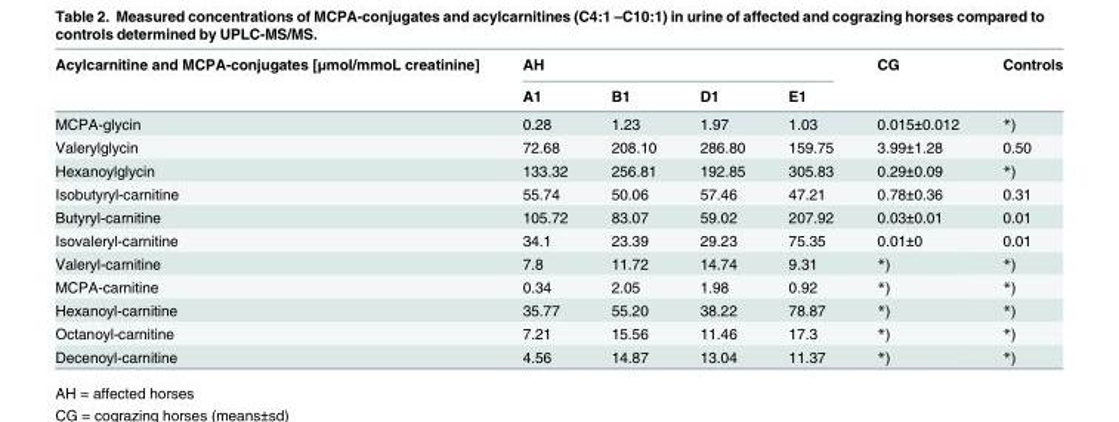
<table><thead><tr><td rowspan="2">Acylcarnitine and MCPA-conjugates [μmol/mmoL creatinine]</td><td colspan="4">AH</td><td rowspan="2">CG</td><td rowspan="2">Controls</td></tr><tr><td>A1</td><td>B1</td><td>D1</td><td>E1</td></tr></thead><tbody><tr><td>MCPA-glycin</td><td>0.28</td><td>1.23</td><td>1.97</td><td>1.03</td><td>0.015±0.012</td><td>*)</td></tr><tr><td>Valerylglycin</td><td>72.68</td><td>208.10</td><td>286.80</td><td>159.75</td><td>3.99±1.28</td><td>0.50</td></tr><tr><td>Hexanoylglycin</td><td>133.32</td><td>256.81</td><td>192.85</td><td>305.83</td><td>0.29±0.09</td><td>*)</td></tr><tr><td>Isobutyryl-carnitine</td><td>55.74</td><td>50.06</td><td>57.46</td><td>47.21</td><td>0.78±0.36</td><td>0.31</td></tr><tr><td>Butyryl-carnitine</td><td>105.72</td><td>83.07</td><td>59.02</td><td>207.92</td><td>0.03±0.01</td><td>0.01</td></tr><tr><td>Isovaleryl-carnitine</td><td>34.1</td><td>23.39</td><td>29.23</td><td>75.35</td><td>0.01±0</td><td>0.01</td></tr><tr><td>Valeryl-carnitine</td><td>7.8</td><td>11.72</td><td>14.74</td><td>9.31</td><td>*)</td><td>*)</td></tr><tr><td>MCPA-carnitine</td><td>0.34</td><td>2.05</td><td>1.98</td><td>0.92</td><td>*)</td><td>*)</td></tr><tr><td>Hexanoyl-carnitine</td><td>35.77</td><td>55.20</td><td>38.22</td><td>78.87</td><td>*)</td><td>*)</td></tr><tr><td>Octanoyl-carnitine</td><td>7.21</td><td>15.56</td><td>11.46</td><td>17.3</td><td>*)</td><td>*)</td></tr><tr><td>Decenoyl-carnitine</td><td>4.56</td><td>14.87</td><td>13.04</td><td>11.37</td><td>*)</td><td>*)</td></tr></tbody></table>